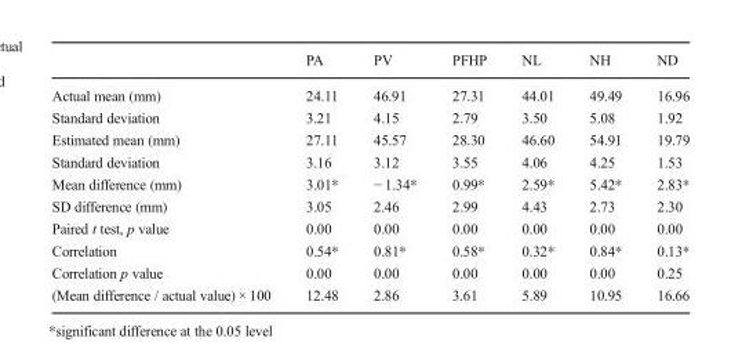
<table><thead><tr><td></td><td>PA</td><td>PV</td><td>PFHP</td><td>NL</td><td>NH</td><td>ND</td></tr></thead><tbody><tr><td>Actual mean (mm)</td><td>24.11</td><td>46.91</td><td>27.31</td><td>44.01</td><td>49.49</td><td>16.96</td></tr><tr><td>Standard deviation</td><td>3.21</td><td>4.15</td><td>2.79</td><td>3.50</td><td>5.08</td><td>1.92</td></tr><tr><td>Estimated mean (mm)</td><td>27.11</td><td>45.57</td><td>28.30</td><td>46.60</td><td>54.91</td><td>19.79</td></tr><tr><td>Standard deviation</td><td>3.16</td><td>3.12</td><td>3.55</td><td>4.06</td><td>4.25</td><td>1.53</td></tr><tr><td>Mean difference (mm)</td><td>3.01*</td><td>− 1.34*</td><td>0.99*</td><td>2.59*</td><td>5.42*</td><td>2.83*</td></tr><tr><td>SD difference (mm)</td><td>3.05</td><td>2.46</td><td>2.99</td><td>4.43</td><td>2.73</td><td>2.30</td></tr><tr><td>Paired t test, p value</td><td>0.00</td><td>0.00</td><td>0.00</td><td>0.00</td><td>0.00</td><td>0.00</td></tr><tr><td>Correlation</td><td>0.54*</td><td>0.81*</td><td>0.58*</td><td>0.32*</td><td>0.84*</td><td>0.13*</td></tr><tr><td>Correlation p value</td><td>0.00</td><td>0.00</td><td>0.00</td><td>0.00</td><td>0.00</td><td>0.25</td></tr><tr><td>(Mean difference / actual value) × 100</td><td>12.48</td><td>2.86</td><td>3.61</td><td>5.89</td><td>10.95</td><td>16.66</td></tr></tbody></table>